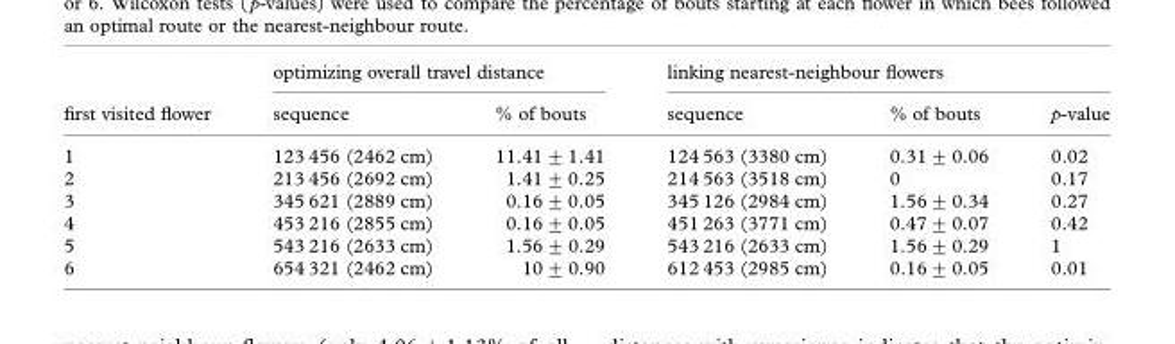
<table><thead><tr><td rowspan="2">first visited flower</td><td colspan="2">optimizing overall travel distance</td><td colspan="3">linking nearest-neighbour flowers</td></tr><tr><td>sequence</td><td>% of bouts</td><td>sequence</td><td>% of bouts</td><td>p-value</td></tr></thead><tbody><tr><td>1</td><td>123 456 (2462 cm)</td><td>11.41 +1.41</td><td>124 563 (3380 cm)</td><td>0.31+ 0.06</td><td>0.02</td></tr><tr><td>2</td><td>213 456 (2692 cm)</td><td>1.41 +0.25</td><td>214 563 (3518 cm)</td><td>0</td><td>0.17</td></tr><tr><td>3</td><td>345 621 (2889 cm)</td><td>0.16 +0.05</td><td>345 126 (2984 cm)</td><td>1.56+ 0.34</td><td>0.27</td></tr><tr><td>4</td><td>453 216 (2855 cm)</td><td>0.16 +0.05</td><td>451 263 (3771 cm)</td><td>0.47+ 0.07</td><td>0.42</td></tr><tr><td>5</td><td>543 216 (2633 cm)</td><td>1.56 +0.29</td><td>543 216 (2633 cm)</td><td>1.56+ 0.29</td><td>1</td></tr><tr><td>6</td><td>654 321 (2462 cm)</td><td>10+0.90</td><td>612 453 (2985 cm)</td><td>0.16+ 0.05</td><td>0.01</td></tr></tbody></table>